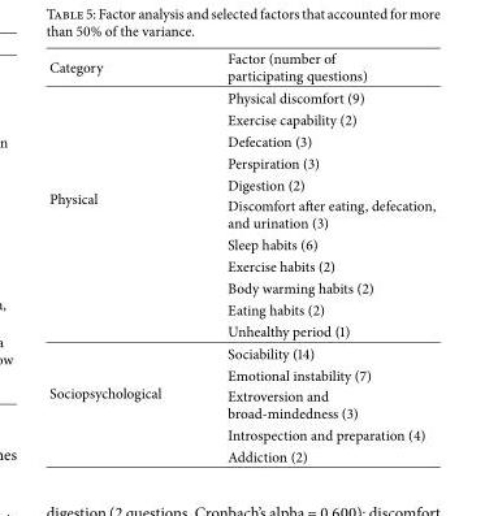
<table><thead><tr><td>Category</td><td>Factor (number of participating questions)</td></tr></thead><tbody><tr><td rowspan="11">Physical</td><td>Physical discomfort (9)</td></tr><tr><td>Exercise capability (2)</td></tr><tr><td>Defecation (3)</td></tr><tr><td>Perspiration (3)</td></tr><tr><td>Digestion (2)</td></tr><tr><td>Discomfort after eating, defecation, and urination (3)</td></tr><tr><td>Sleep habits (6)</td></tr><tr><td>Exercise habits (2)</td></tr><tr><td>Body warming habits (2)</td></tr><tr><td>Eating habits (2)</td></tr><tr><td>Unhealthy period (1)</td></tr><tr><td rowspan="5">Sociopsychological</td><td>Sociability (14)</td></tr><tr><td>Emotional instability (7)</td></tr><tr><td>Extroversion and broad-mindedness (3)</td></tr><tr><td>Introspection and preparation (4)</td></tr><tr><td>Addiction (2)</td></tr></tbody></table>